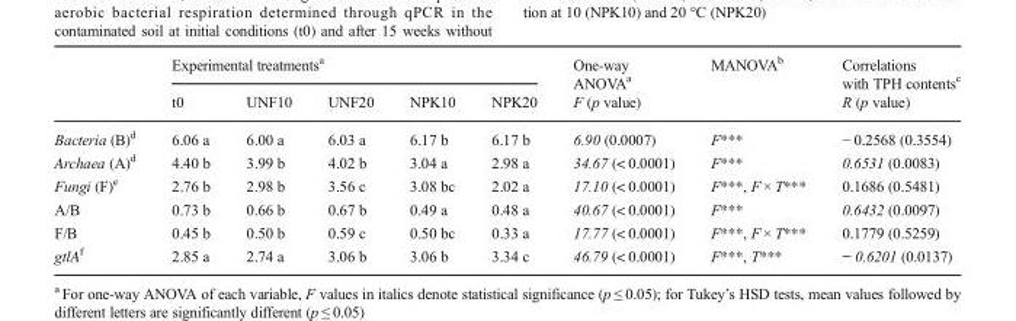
<table><thead><tr><td rowspan="2"></td><td colspan="5">Experimental treatments<sup>a</sup></td><td rowspan="2">One-way ANOVA<sup>a</sup> F (p value)</td><td rowspan="2">MANOVA<sup>b</sup></td><td rowspan="2">Correlations with TPH contents<sup>c</sup> R (p value)</td></tr><tr><td>t0</td><td>UNF10</td><td>UNF20</td><td>NPK10</td><td>NPK20</td></tr></thead><tbody><tr><td>Bacteria (B)<sup>d</sup></td><td>6.06 a</td><td>6.00 a</td><td>6.03 a</td><td>6.17 b</td><td>6.17 b</td><td>6.90 (0.0007)</td><td>F***</td><td>− 0.2568 (0.3554)</td></tr><tr><td>Archaea (A)<sup>d</sup></td><td>4.40 b</td><td>3.99 b</td><td>4.02 b</td><td>3.04 a</td><td>2.98 a</td><td>34.67 (&lt; 0.0001)</td><td>F***</td><td>0.6531 (0.0083)</td></tr><tr><td>Fungi (F)<sup>e</sup></td><td>2.76 b</td><td>2.98 b</td><td>3.56 c</td><td>3.08 bc</td><td>2.02 a</td><td>17.10 (&lt; 0.0001)</td><td>F***, F × T***</td><td>0.1686 (0.5481)</td></tr><tr><td>A/B</td><td>0.73 b</td><td>0.66 b</td><td>0.67 b</td><td>0.49 a</td><td>0.48 a</td><td>40.67 (&lt; 0.0001)</td><td>F***</td><td>0.6432 (0.0097)</td></tr><tr><td>F/B</td><td>0.45 b</td><td>0.50 b</td><td>0.59 c</td><td>0.50 bc</td><td>0.33 a</td><td>17.77 (&lt; 0.0001)</td><td>F***, F × T***</td><td>0.1779 (0.5259)</td></tr><tr><td>gtlA<sup>f</sup></td><td>2.85 a</td><td>2.74 a</td><td>3.06 b</td><td>3.06 b</td><td>3.34 c</td><td>46.79 (&lt; 0.0001)</td><td>F***, T***</td><td>− 0.6201 (0.0137)</td></tr></tbody></table>